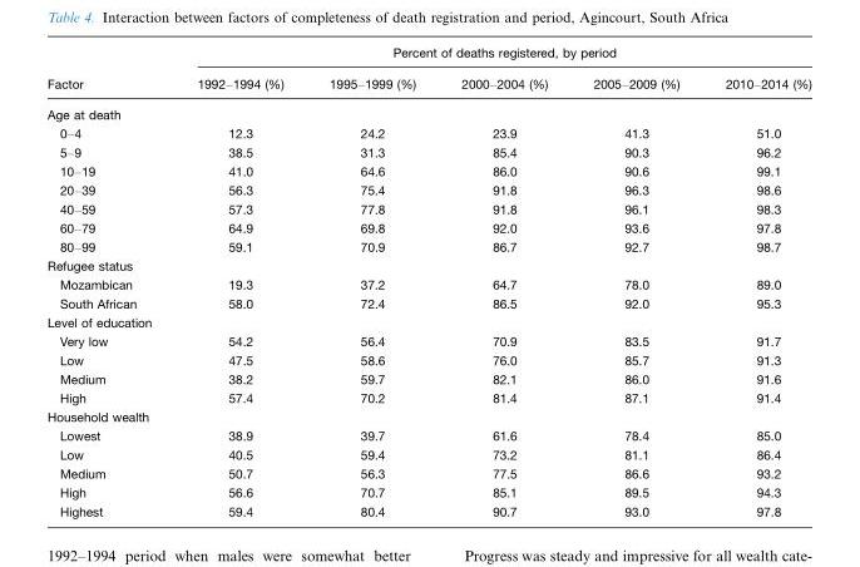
<table><thead><tr><td rowspan="2">Factor</td><td colspan="5">Percent of deaths registered, by period</td></tr><tr><td>1992–1994 (%)</td><td>1995–1999 (%)</td><td>2000–2004 (%)</td><td>2005–2009 (%)</td><td>2010–2014 (%)</td></tr></thead><tbody><tr><td colspan="6">Age at death</td></tr><tr><td>0–4</td><td>12.3</td><td>24.2</td><td>23.9</td><td>41.3</td><td>51.0</td></tr><tr><td>5–9</td><td>38.5</td><td>31.3</td><td>85.4</td><td>90.3</td><td>96.2</td></tr><tr><td>10–19</td><td>41.0</td><td>64.6</td><td>86.0</td><td>90.6</td><td>99.1</td></tr><tr><td>20–39</td><td>56.3</td><td>75.4</td><td>91.8</td><td>96.3</td><td>98.6</td></tr><tr><td>40–59</td><td>57.3</td><td>77.8</td><td>91.8</td><td>96.1</td><td>98.3</td></tr><tr><td>60–79</td><td>64.9</td><td>69.8</td><td>92.0</td><td>93.6</td><td>97.8</td></tr><tr><td>80–99</td><td>59.1</td><td>70.9</td><td>86.7</td><td>92.7</td><td>98.7</td></tr><tr><td colspan="6">Refugee status</td></tr><tr><td>Mozambican</td><td>19.3</td><td>37.2</td><td>64.7</td><td>78.0</td><td>89.0</td></tr><tr><td>South African</td><td>58.0</td><td>72.4</td><td>86.5</td><td>92.0</td><td>95.3</td></tr><tr><td colspan="6">Level of education</td></tr><tr><td>Very low</td><td>54.2</td><td>56.4</td><td>70.9</td><td>83.5</td><td>91.7</td></tr><tr><td>Low</td><td>47.5</td><td>58.6</td><td>76.0</td><td>85.7</td><td>91.3</td></tr><tr><td>Medium</td><td>38.2</td><td>59.7</td><td>82.1</td><td>86.0</td><td>91.6</td></tr><tr><td>High</td><td>57.4</td><td>70.2</td><td>81.4</td><td>87.1</td><td>91.4</td></tr><tr><td colspan="6">Household wealth</td></tr><tr><td>Lowest</td><td>38.9</td><td>39.7</td><td>61.6</td><td>78.4</td><td>85.0</td></tr><tr><td>Low</td><td>40.5</td><td>59.4</td><td>73.2</td><td>81.1</td><td>86.4</td></tr><tr><td>Medium</td><td>50.7</td><td>56.3</td><td>77.5</td><td>86.6</td><td>93.2</td></tr><tr><td>High</td><td>56.6</td><td>70.7</td><td>85.1</td><td>89.5</td><td>94.3</td></tr><tr><td>Highest</td><td>59.4</td><td>80.4</td><td>90.7</td><td>93.0</td><td>97.8</td></tr></tbody></table>